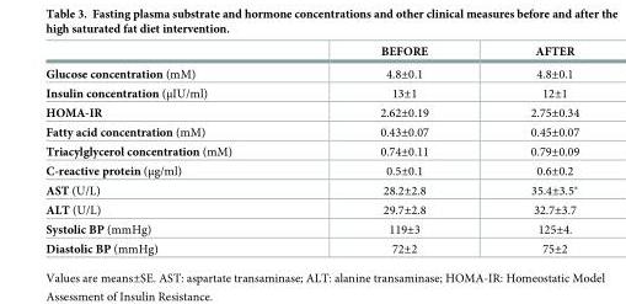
<table><thead><tr><td></td><td>BEFORE</td><td>AFTER</td></tr></thead><tbody><tr><td>Glucose concentration (mM)</td><td>4.8±0.1</td><td>4.8±0.1</td></tr><tr><td>Insulin concentration (μIU/ml)</td><td>13±1</td><td>12±1</td></tr><tr><td>HOMA-IR</td><td>2.62±0.19</td><td>2.75±0.34</td></tr><tr><td>Fatty acid concentration (mM)</td><td>0.43±0.07</td><td>0.45±0.07</td></tr><tr><td>Triacylglycerol concentration (mM)</td><td>0.74±0.11</td><td>0.79±0.09</td></tr><tr><td>C-reactive protein (μg/ml)</td><td>0.5±0.1</td><td>0.6±0.2</td></tr><tr><td>AST (U/L)</td><td>28.2±2.8</td><td>35.4±3.5*</td></tr><tr><td>ALT (U/L)</td><td>29.7±2.8</td><td>32.7±3.7</td></tr><tr><td>Systolic BP (mmHg)</td><td>119±3</td><td>125±4.</td></tr><tr><td>Diastolic BP (mmHg)</td><td>72±2</td><td>75±2</td></tr></tbody></table>